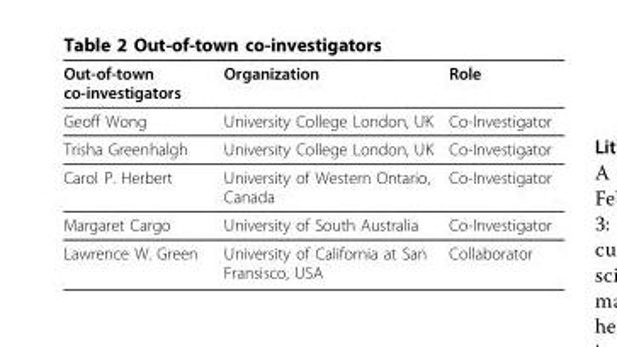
<table><thead><tr><td>Out-of-town co-investigators</td><td>Organization</td><td>Role</td></tr></thead><tbody><tr><td>Geoff Wong</td><td>University College London, UK</td><td>Co-Investigator</td></tr><tr><td>Trisha Greenhalgh</td><td>University College London, UK</td><td>Co-Investigator</td></tr><tr><td>Carol P. Herbert</td><td>University of Western Ontario, Canada</td><td>Co-Investigator</td></tr><tr><td>Margaret Cargo</td><td>University of South Australia</td><td>Co-Investigator</td></tr><tr><td>Lawrence W. Green</td><td>University of California at San Fransisco, USA</td><td>Collaborator</td></tr></tbody></table>